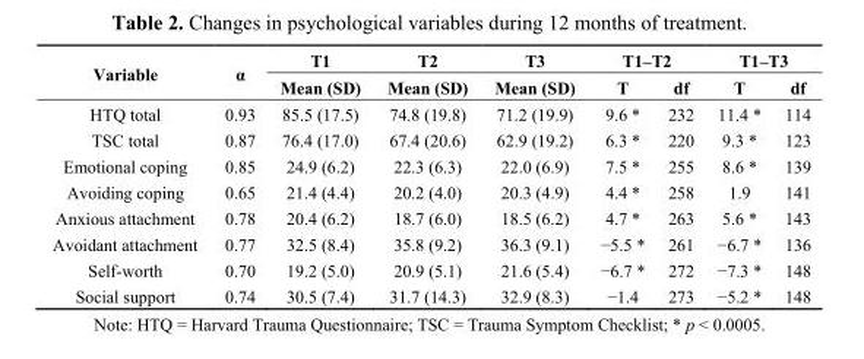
<table><thead><tr><td rowspan="2">Variable</td><td rowspan="2">α</td><td rowspan="2">T1 Mean (SD)</td><td rowspan="2">T2 Mean (SD)</td><td rowspan="2">T3 Mean (SD)</td><td colspan="2">T1–T2</td><td colspan="2">T1–T3</td></tr><tr><td>T</td><td>df</td><td>T</td><td>df</td></tr></thead><tbody><tr><td>HTQ total</td><td>0.93</td><td>85.5 (17.5)</td><td>74.8 (19.8)</td><td>71.2 (19.9)</td><td>9.6 *</td><td>232</td><td>11.4 *</td><td>114</td></tr><tr><td>TSC total</td><td>0.87</td><td>76.4 (17.0)</td><td>67.4 (20.6)</td><td>62.9 (19.2)</td><td>6.3 *</td><td>220</td><td>9.3 *</td><td>123</td></tr><tr><td>Emotional coping</td><td>0.85</td><td>24.9 (6.2)</td><td>22.3 (6.3)</td><td>22.0 (6.9)</td><td>7.5 *</td><td>255</td><td>8.6 *</td><td>139</td></tr><tr><td>Avoiding coping</td><td>0.65</td><td>21.4 (4.4)</td><td>20.2 (4.0)</td><td>20.3 (4.9)</td><td>4.4 *</td><td>258</td><td>1.9</td><td>141</td></tr><tr><td>Anxious attachment</td><td>0.78</td><td>20.4 (6.2)</td><td>18.7 (6.0)</td><td>18.5 (6.2)</td><td>4.7 *</td><td>263</td><td>5.6 *</td><td>143</td></tr><tr><td>Avoidant attachment</td><td>0.77</td><td>32.5 (8.4)</td><td>35.8 (9.2)</td><td>36.3 (9.1)</td><td>−5.5 *</td><td>261</td><td>−6.7 *</td><td>136</td></tr><tr><td>Self-worth</td><td>0.70</td><td>19.2 (5.0)</td><td>20.9 (5.1)</td><td>21.6 (5.4)</td><td>−6.7 *</td><td>272</td><td>−7.3 *</td><td>148</td></tr><tr><td>Social support</td><td>0.74</td><td>30.5 (7.4)</td><td>31.7 (14.3)</td><td>32.9 (8.3)</td><td>−1.4</td><td>273</td><td>−5.2 *</td><td>148</td></tr></tbody></table>